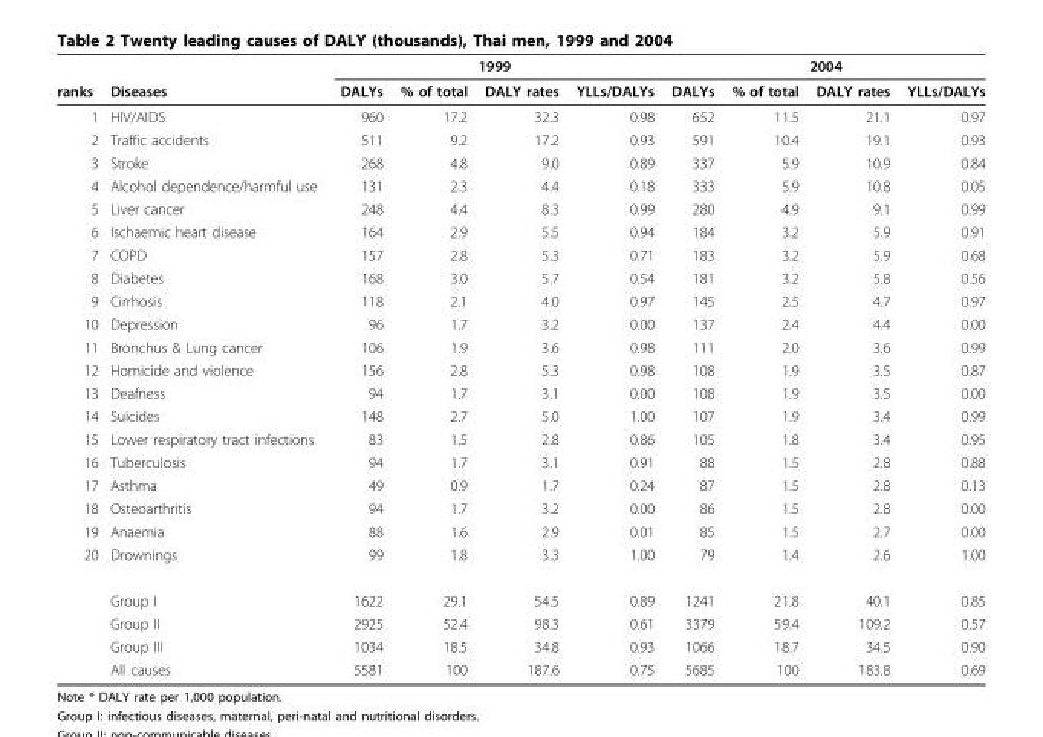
<table><thead><tr><td rowspan="2">ranks</td><td rowspan="2">Diseases</td><td colspan="4">1999</td><td colspan="4">2004</td></tr><tr><td>DALYs</td><td>% of total</td><td>DALY rates</td><td>YLLs/DALYs</td><td>DALYs</td><td>% of total</td><td>DALY rates</td><td>YLLs/DALYs</td></tr></thead><tbody><tr><td>1</td><td>HIV/AIDS</td><td>960</td><td>17.2</td><td>32.3</td><td>0.98</td><td>652</td><td>11.5</td><td>21.1</td><td>0.97</td></tr><tr><td>2</td><td>Traffic accidents</td><td>511</td><td>9.2</td><td>17.2</td><td>0.93</td><td>591</td><td>10.4</td><td>19.1</td><td>0.93</td></tr><tr><td>3</td><td>Stroke</td><td>268</td><td>4.8</td><td>9.0</td><td>0.89</td><td>337</td><td>5.9</td><td>10.9</td><td>0.84</td></tr><tr><td>4</td><td>Alcohol dependence/harmful use</td><td>131</td><td>2.3</td><td>4.4</td><td>0.18</td><td>333</td><td>5.9</td><td>10.8</td><td>0.05</td></tr><tr><td>5</td><td>Liver cancer</td><td>248</td><td>4.4</td><td>8.3</td><td>0.99</td><td>280</td><td>4.9</td><td>9.1</td><td>0.99</td></tr><tr><td>6</td><td>Ischaemic heart disease</td><td>164</td><td>2.9</td><td>5.5</td><td>0.94</td><td>184</td><td>3.2</td><td>5.9</td><td>0.91</td></tr><tr><td>7</td><td>COPD</td><td>157</td><td>2.8</td><td>5.3</td><td>0.71</td><td>183</td><td>3.2</td><td>5.9</td><td>0.68</td></tr><tr><td>8</td><td>Diabetes</td><td>168</td><td>3.0</td><td>5.7</td><td>0.54</td><td>181</td><td>3.2</td><td>5.8</td><td>0.56</td></tr><tr><td>9</td><td>Cirrhosis</td><td>118</td><td>2.1</td><td>4.0</td><td>0.97</td><td>145</td><td>2.5</td><td>4.7</td><td>0.97</td></tr><tr><td>10</td><td>Depression</td><td>96</td><td>1.7</td><td>3.2</td><td>0.00</td><td>137</td><td>2.4</td><td>4.4</td><td>0.00</td></tr><tr><td>11</td><td>Bronchus &amp; Lung cancer</td><td>106</td><td>1.9</td><td>3.6</td><td>0.98</td><td>111</td><td>2.0</td><td>3.6</td><td>0.99</td></tr><tr><td>12</td><td>Homicide and violence</td><td>156</td><td>2.8</td><td>5.3</td><td>0.98</td><td>108</td><td>1.9</td><td>3.5</td><td>0.87</td></tr><tr><td>13</td><td>Deafness</td><td>94</td><td>1.7</td><td>3.1</td><td>0.00</td><td>108</td><td>1.9</td><td>3.5</td><td>0.00</td></tr><tr><td>14</td><td>Suicides</td><td>148</td><td>2.7</td><td>5.0</td><td>1.00</td><td>107</td><td>1.9</td><td>3.4</td><td>0.99</td></tr><tr><td>15</td><td>Lower respiratory tract infections</td><td>83</td><td>1.5</td><td>2.8</td><td>0.86</td><td>105</td><td>1.8</td><td>3.4</td><td>0.95</td></tr><tr><td>16</td><td>Tuberculosis</td><td>94</td><td>1.7</td><td>3.1</td><td>0.91</td><td>88</td><td>1.5</td><td>2.8</td><td>0.88</td></tr><tr><td>17</td><td>Asthma</td><td>49</td><td>0.9</td><td>1.7</td><td>0.24</td><td>87</td><td>1.5</td><td>2.8</td><td>0.13</td></tr><tr><td>18</td><td>Osteoarthritis</td><td>94</td><td>1.7</td><td>3.2</td><td>0.00</td><td>86</td><td>1.5</td><td>2.8</td><td>0.00</td></tr><tr><td>19</td><td>Anaemia</td><td>88</td><td>1.6</td><td>2.9</td><td>0.01</td><td>85</td><td>1.5</td><td>2.7</td><td>0.00</td></tr><tr><td rowspan="5">20</td><td>Drownings</td><td>99</td><td>1.8</td><td>3.3</td><td>1.00</td><td>79</td><td>1.4</td><td>2.6</td><td>1.00</td></tr><tr><td>Group I</td><td>1622</td><td>29.1</td><td>54.5</td><td>0.89</td><td>1241</td><td>21.8</td><td>40.1</td><td>0.85</td></tr><tr><td>Group II</td><td>2925</td><td>52.4</td><td>98.3</td><td>0.61</td><td>3379</td><td>59.4</td><td>109.2</td><td>0.57</td></tr><tr><td>Group III</td><td>1034</td><td>18.5</td><td>34.8</td><td>0.93</td><td>1066</td><td>18.7</td><td>34.5</td><td>0.90</td></tr><tr><td>All causes</td><td>5581</td><td>100</td><td>187.6</td><td>0.75</td><td>5685</td><td>100</td><td>183.8</td><td>0.69</td></tr></tbody></table>